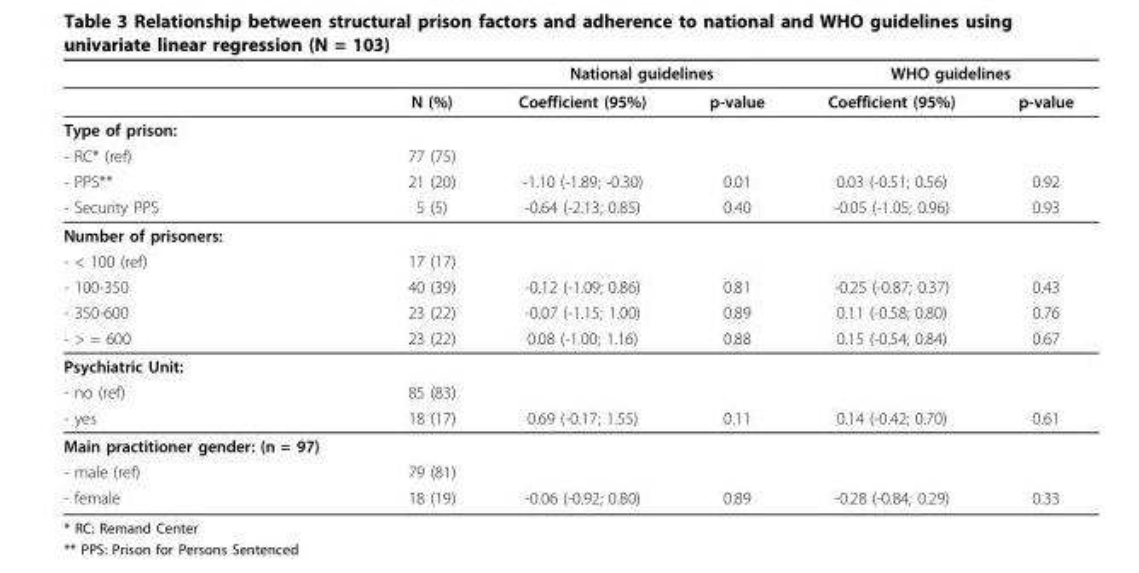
<table><thead><tr><td rowspan="2"></td><td rowspan="2">N (%)</td><td colspan="2">National guidelines</td><td colspan="2">WHO guidelines</td></tr><tr><td>Coefficient (95%)</td><td>p-value</td><td>Coefficient (95%)</td><td>p-value</td></tr></thead><tbody><tr><td colspan="6">Type of prison:</td></tr><tr><td>- RC* (ref)</td><td>77 (75)</td><td></td><td></td><td></td><td></td></tr><tr><td>- PPS**</td><td>21 (20)</td><td>-1.10 (-1.89; -0.30)</td><td>0.01</td><td>0.03 (-0.51; 0.56)</td><td>0.92</td></tr><tr><td>- Security PPS</td><td>5 (5)</td><td>-0.64 (-2.13; 0.85)</td><td>0.40</td><td>-0.05 (-1.05; 0.96)</td><td>0.93</td></tr><tr><td colspan="6">Number of prisoners:</td></tr><tr><td>- &lt; 100 (ref)</td><td>17 (17)</td><td></td><td></td><td></td><td></td></tr><tr><td>- 100-350</td><td>40 (39)</td><td>-0.12 (-1.09; 0.86)</td><td>0.81</td><td>-0.25 (-0.87; 0.37)</td><td>0.43</td></tr><tr><td>- 350-600</td><td>23 (22)</td><td>-0.07 (-1.15; 1.00)</td><td>0.89</td><td>0.11 (-0.58; 0.80)</td><td>0.76</td></tr><tr><td>- &gt; = 600</td><td>23 (22)</td><td>0.08 (-1.00; 1.16)</td><td>0.88</td><td>0.15 (-0.54; 0.84)</td><td>0.67</td></tr><tr><td colspan="6">Psychiatric Unit:</td></tr><tr><td>- no (ref)</td><td>85 (83)</td><td></td><td></td><td></td><td></td></tr><tr><td>- yes</td><td>18 (17)</td><td>0.69 (-0.17; 1.55)</td><td>0.11</td><td>0.14 (-0.42; 0.70)</td><td>0.61</td></tr><tr><td colspan="6">Main practitioner gender: (n = 97)</td></tr><tr><td>- male (ref)</td><td>79 (81)</td><td></td><td></td><td></td><td></td></tr><tr><td>- female</td><td>18 (19)</td><td>-0.06 (-0.92; 0.80)</td><td>0.89</td><td>-0.28 (-0.84; 0.29)</td><td>0.33</td></tr></tbody></table>